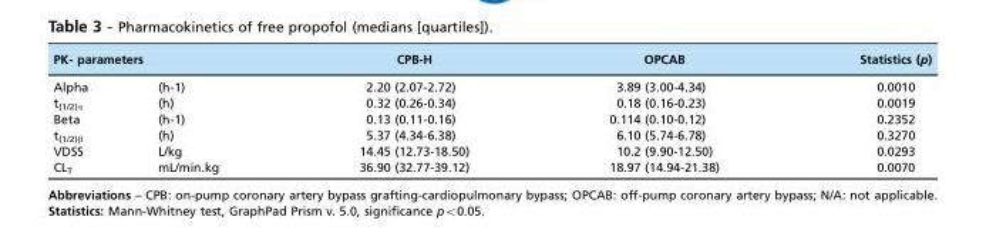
<table><thead><tr><td colspan="2">PK- parameters</td><td rowspan="2">CPB-H 2.20 (2.07-2.72)</td><td rowspan="2">OPCAB 3.89 (3.00-4.34)</td><td rowspan="2">Statistics (p) 0.0010</td></tr><tr><td>Alpha</td><td>(h-1)</td></tr></thead><tbody><tr><td>t<sub>(1/2)α</sub></td><td>(h)</td><td>0.32 (0.26-0.34)</td><td>0.18 (0.16-0.23)</td><td>0.0019</td></tr><tr><td>Beta</td><td>(h-1)</td><td>0.13 (0.11-0.16)</td><td>0.114 (0.10-0.12)</td><td>0.2352</td></tr><tr><td>t<sub>(1/2)β</sub></td><td>(h)</td><td>5.37 (4.34-6.38)</td><td>6.10 (5.74-6.78)</td><td>0.3270</td></tr><tr><td>VDSS</td><td>L/kg</td><td>14.45 (12.73-18.50)</td><td>10.2 (9.90-12.50)</td><td>0.0293</td></tr><tr><td>CL<sub>T</sub></td><td>mL/min.kg</td><td>36.90 (32.77-39.12)</td><td>18.97 (14.94-21.38)</td><td>0.0070</td></tr></tbody></table>